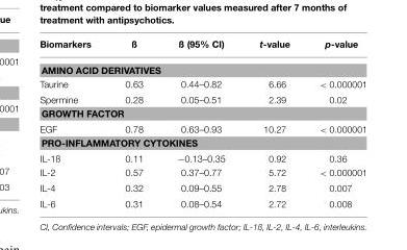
<table><thead><tr><td>Biomarkers</td><td>ß</td><td>ß (95% CI)</td><td>t-value</td><td>p-value</td></tr></thead><tbody><tr><td colspan="5">AMINO ACID DERIVATIVES</td></tr><tr><td>Taurine</td><td>0.63</td><td>0.44–0.82</td><td>6.66</td><td>&lt; 0.000001</td></tr><tr><td>Spermine</td><td>0.28</td><td>0.05–0.51</td><td>2.39</td><td>0.02</td></tr><tr><td colspan="5">GROWTH FACTOR</td></tr><tr><td>EGF</td><td>0.78</td><td>0.63–0.93</td><td>10.27</td><td>&lt; 0.000001</td></tr><tr><td colspan="5">PRO-INFLAMMATORY CYTOKINES</td></tr><tr><td>IL-1ß</td><td>0.11</td><td>−0.13–0.35</td><td>0.92</td><td>0.36</td></tr><tr><td>IL-2</td><td>0.57</td><td>0.37–0.77</td><td>5.72</td><td>&lt; 0.000001</td></tr><tr><td>IL-4</td><td>0.32</td><td>0.09–0.55</td><td>2.78</td><td>0.007</td></tr><tr><td>IL-6</td><td>0.31</td><td>0.08–0.54</td><td>2.72</td><td>0.008</td></tr></tbody></table>